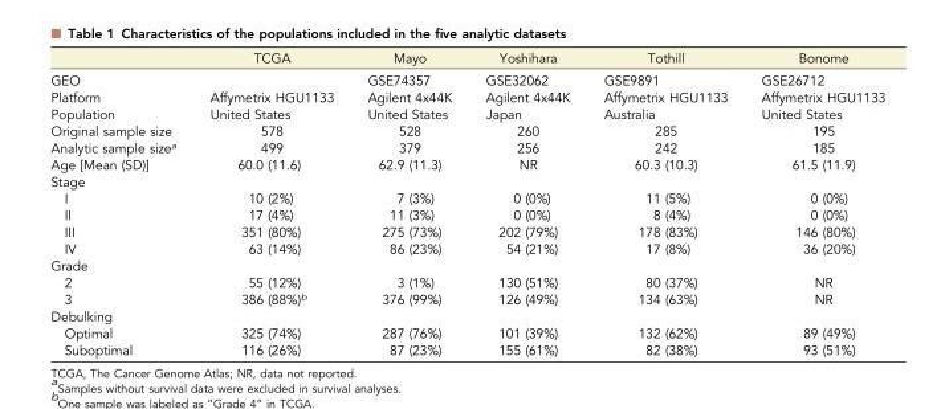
<table><thead><tr><td></td><td>TCGA</td><td>Mayo</td><td>Yoshihara</td><td>Tothill</td><td>Bonome</td></tr></thead><tbody><tr><td>GEO</td><td></td><td>GSE74357</td><td>GSE32062</td><td>GSE9891</td><td>GSE26712</td></tr><tr><td>Platform</td><td>Affymetrix HGU1133</td><td>Agilent 4x44K</td><td>Agilent 4x44K</td><td>Affymetrix HGU1133</td><td>Affymetrix HGU1133</td></tr><tr><td>Population</td><td>United States</td><td>United States</td><td>Japan</td><td>Australia</td><td>United States</td></tr><tr><td>Original sample size</td><td>578</td><td>528</td><td>260</td><td>285</td><td>195</td></tr><tr><td>Analytic sample size<sup>a</sup></td><td>499</td><td>379</td><td>256</td><td>242</td><td>185</td></tr><tr><td>Age [Mean (SD)]</td><td>60.0 (11.6)</td><td>62.9 (11.3)</td><td>NR</td><td>60.3 (10.3)</td><td>61.5 (11.9)</td></tr><tr><td colspan="6">Stage</td></tr><tr><td>I</td><td>10 (2%)</td><td>7 (3%)</td><td>0 (0%)</td><td>11 (5%)</td><td>0 (0%)</td></tr><tr><td>II</td><td>17 (4%)</td><td>11 (3%)</td><td>0 (0%)</td><td>8 (4%)</td><td>0 (0%)</td></tr><tr><td>III</td><td>351 (80%)</td><td>275 (73%)</td><td>202 (79%)</td><td>178 (83%)</td><td>146 (80%)</td></tr><tr><td>IV</td><td>63 (14%)</td><td>86 (23%)</td><td>54 (21%)</td><td>17 (8%)</td><td>36 (20%)</td></tr><tr><td colspan="6">Grade</td></tr><tr><td>2</td><td>55 (12%)</td><td>3 (1%)</td><td>130 (51%)</td><td>80 (37%)</td><td>NR</td></tr><tr><td>3</td><td>386 (88%)<sup>b</sup></td><td>376 (99%)</td><td>126 (49%)</td><td>134 (63%)</td><td>NR</td></tr><tr><td colspan="6">Debulking</td></tr><tr><td>Optimal</td><td>325 (74%)</td><td>287 (76%)</td><td>101 (39%)</td><td>132 (62%)</td><td>89 (49%)</td></tr><tr><td>Suboptimal</td><td>116 (26%)</td><td>87 (23%)</td><td>155 (61%)</td><td>82 (38%)</td><td>93 (51%)</td></tr></tbody></table>